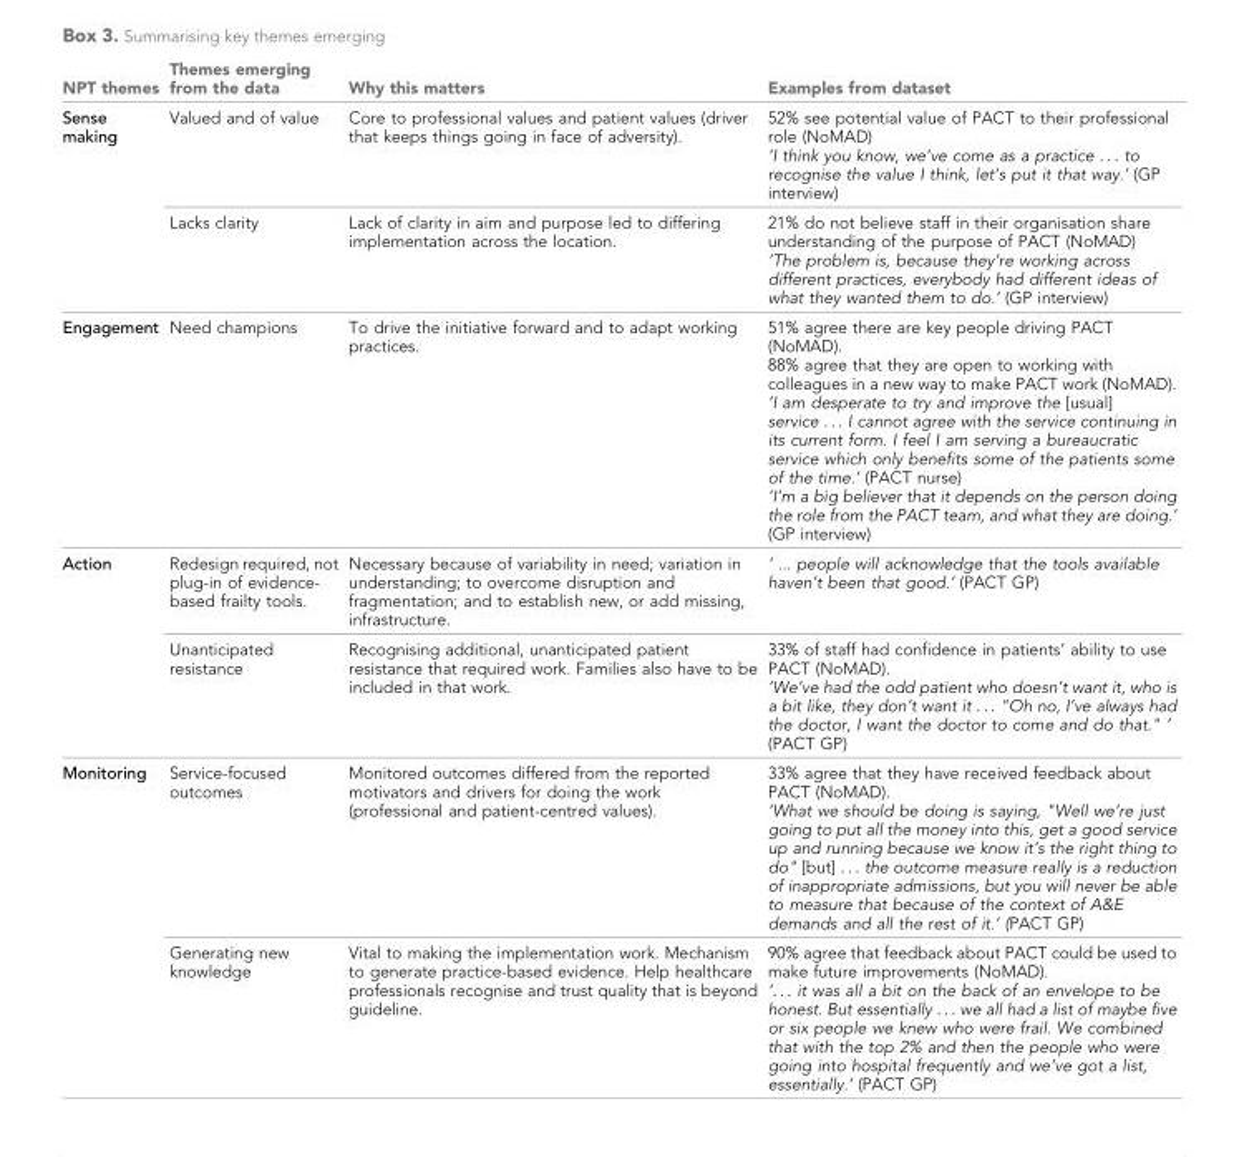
<table><thead><tr><td>NPT themes</td><td>Themes emerging from the data</td><td>Why this matters</td><td>Examples from dataset</td></tr></thead><tbody><tr><td rowspan="2">Sense making</td><td>Valued and of value</td><td>Core to professional values and patient values (driver that keeps things going in face of adversity).</td><td>52% see potential value of PACT to their professional role (NoMAD) ‘I think you know, we’ve come as a practice . . . to recognise the value I think, let’s put it that way.’ (GP interview)</td></tr><tr><td>Lacks clarity</td><td>Lack of clarity in aim and purpose led to differing implementation across the location.</td><td>21% do not believe staff in their organisation share understanding of the purpose of PACT (NoMAD) ‘The problem is, because they’re working across different practices, everybody had different ideas of what they wanted them to do.’ (GP interview)</td></tr><tr><td>Engagement</td><td>Need champions</td><td>To drive the initiative forward and to adapt working practices.</td><td>51% agree there are key people driving PACT (NoMAD). 88% agree that they are open to working with colleagues in a new way to make PACT work (NoMAD). ’I am desperate to try and improve the [usual] service . . . I cannot agree with the service continuing in its current form. I feel I am serving a bureaucratic service which only benefits some of the patients some of the time.’ (PACT nurse) ‘I’m a big believer that it depends on the person doing the role from the PACT team, and what they are doing.’ (GP interview)</td></tr><tr><td rowspan="2">Action</td><td>Redesign required, not plug-in of evidence- based frailty tools.</td><td>Necessary because of variability in need; variation in understanding; to overcome disruption and fragmentation; and to establish new, or add missing, infrastructure.</td><td>‘ ... people will acknowledge that the tools available haven’t been that good.’ (PACT GP)</td></tr><tr><td>Unanticipated resistance</td><td>Recognising additional, unanticipated patient resistance that required work. Families also have to be included in that work.</td><td>33% of staff had confidence in patients’ ability to use PACT (NoMAD). ‘We’ve had the odd patient who doesn’t want it, who is a bit like, they don’t want it . . . &quot;Oh no, I’ve always had the doctor, I want the doctor to come and do that.&quot; ’ (PACT GP)</td></tr><tr><td rowspan="2">Monitoring</td><td>Service-focused outcomes</td><td>Monitored outcomes differed from the reported motivators and drivers for doing the work (professional and patient-centred values).</td><td>33% agree that they have received feedback about PACT (NoMAD). ‘What we should be doing is saying, &quot;Well we’re just going to put all the money into this, get a good service up and running because we know it’s the right thing to do&quot; [but] . . . the outcome measure really is a reduction of inappropriate admissions, but you will never be able to measure that because of the context of A&amp;E demands and all the rest of it.’ (PACT GP)</td></tr><tr><td>Generating new knowledge</td><td>Vital to making the implementation work. Mechanism to generate practice-based evidence. Help healthcare professionals recognise and trust quality that is beyond guideline.</td><td>90% agree that feedback about PACT could be used to make future improvements (NoMAD). ‘. . . it was all a bit on the back of an envelope to be honest. But essentially . . . we all had a list of maybe five or six people we knew who were frail. We combined that with the top 2% and then the people who were going into hospital frequently and we’ve got a list, essentially.’ (PACT GP)</td></tr></tbody></table>